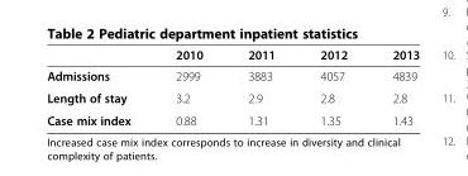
<table><thead><tr><td></td><td>2010</td><td>2011</td><td>2012</td><td>2013</td></tr></thead><tbody><tr><td>Admissions</td><td>2999</td><td>3883</td><td>4057</td><td>4839</td></tr><tr><td>Length of stay</td><td>3.2</td><td>2.9</td><td>2.8</td><td>2.8</td></tr><tr><td>Case mix index</td><td>0.88</td><td>1.31</td><td>1.35</td><td>1.43</td></tr></tbody></table>